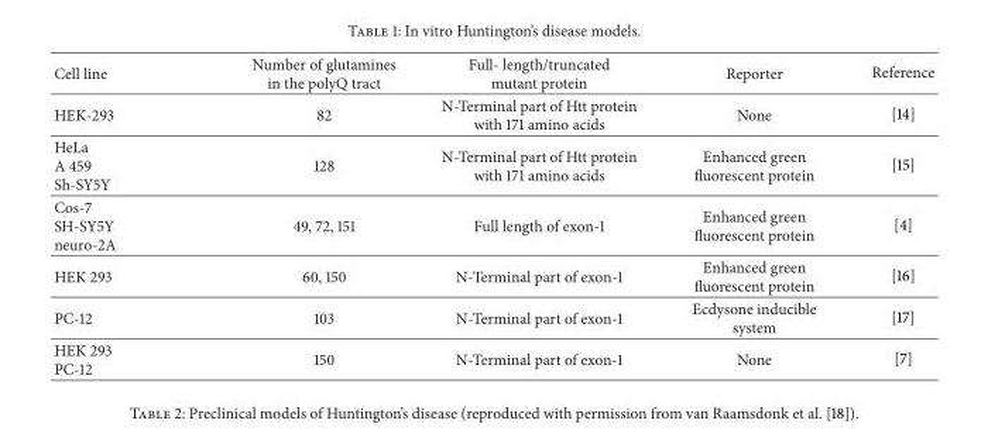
<table><thead><tr><td>Cell line</td><td>Number of glutamines in the polyQ tract</td><td>Full- length/truncated mutant protein</td><td>Reporter</td><td>Reference</td></tr></thead><tbody><tr><td>HEK-293</td><td>82</td><td>N-Terminal part of Htt protein with 171 amino acids</td><td>None</td><td>[14]</td></tr><tr><td>HeLa A 459 Sh-SY5Y</td><td>128</td><td>N-Terminal part of Htt protein with 171 amino acids</td><td>Enhanced green fluorescent protein</td><td>[15]</td></tr><tr><td>Cos-7 SH-SY5Y neuro-2A</td><td>49, 72, 151</td><td>Full length of exon-1</td><td>Enhanced green fluorescent protein</td><td>[4]</td></tr><tr><td>HEK 293</td><td>60, 150</td><td>N-Terminal part of exon-1</td><td>Enhanced green fluorescent protein</td><td>[16]</td></tr><tr><td>PC-12</td><td>103</td><td>N-Terminal part of exon-1</td><td>Ecdysone inducible system</td><td>[17]</td></tr><tr><td>HEK 293 PC-12</td><td>150</td><td>N-Terminal part of exon-1</td><td>None</td><td>[7]</td></tr></tbody></table>